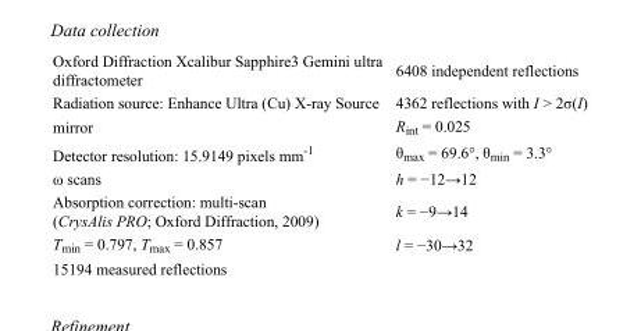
<table><tbody><tr><td>Oxford Diffraction Xcalibur Sapphire3 Gemini ultra diffractometer</td><td>6408 independent reflections</td></tr><tr><td>Radiation source: Enhance Ultra (Cu) X-ray Source</td><td>4362 reflections with I &gt; 2σ(I)</td></tr><tr><td>mirror</td><td>R<sub>int</sub> = 0.025</td></tr><tr><td>Detector resolution: 15.9149 pixels mm<sup>-1</sup></td><td>θ<sub>max</sub> = 69.6°, θ<sub>min</sub> = 3.3°</td></tr><tr><td>ω scans</td><td>h = −12→12</td></tr><tr><td>Absorption correction: multi-scan (CrysAlis PRO; Oxford Diffraction, 2009)</td><td>k = −9→14</td></tr><tr><td>T<sub>min</sub> = 0.797, T<sub>max</sub> = 0.857</td><td>l = −30→32</td></tr><tr><td>15194 measured reflections</td><td></td></tr></tbody></table>